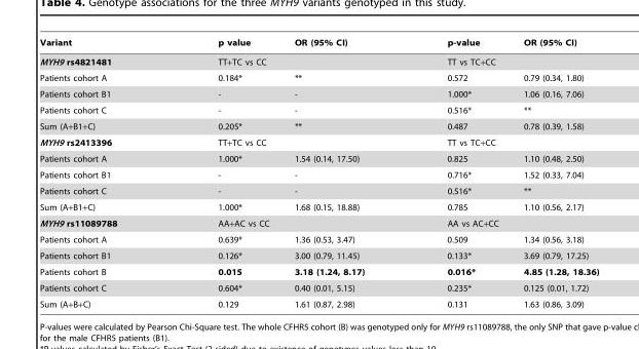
<table><thead><tr><td>Variant</td><td>p value</td><td>OR (95% CI)</td><td>p-value</td><td>OR (95% CI)</td></tr></thead><tbody><tr><td>MYH9 rs4821481</td><td colspan="2">TT+TC vs CC</td><td colspan="2">TT vs TC+CC</td></tr><tr><td>Patients cohort A</td><td>0.184*</td><td>**</td><td>0.572</td><td>0.79 (0.34, 1.80)</td></tr><tr><td>Patients cohort B1</td><td>-</td><td>-</td><td>1.000*</td><td>1.06 (0.16, 7.06)</td></tr><tr><td>Patients cohort C</td><td>-</td><td>-</td><td>0.516*</td><td>**</td></tr><tr><td>Sum (A+B1+C)</td><td>0.205*</td><td>**</td><td>0.487</td><td>0.78 (0.39, 1.58)</td></tr><tr><td>MYH9 rs2413396</td><td colspan="2">TT+TC vs CC</td><td colspan="2">TT vs TC+CC</td></tr><tr><td>Patients cohort A</td><td>1.000*</td><td>1.54 (0.14, 17.50)</td><td>0.825</td><td>1.10 (0.48, 2.50)</td></tr><tr><td>Patients cohort B1</td><td>-</td><td>-</td><td>0.716*</td><td>1.52 (0.33, 7.04)</td></tr><tr><td>Patients cohort C</td><td>-</td><td>-</td><td>0.516*</td><td>**</td></tr><tr><td>Sum (A+B1+C)</td><td>1.000*</td><td>1.68 (0.15, 18.88)</td><td>0.785</td><td>1.10 (0.56, 2.17)</td></tr><tr><td>MYH9 rs11089788</td><td colspan="2">AA+AC vs CC</td><td colspan="2">AA vs AC+CC</td></tr><tr><td>Patients cohort A</td><td>0.639*</td><td>1.36 (0.53, 3.47)</td><td>0.509</td><td>1.34 (0.56, 3.18)</td></tr><tr><td>Patients cohort B1</td><td>0.126*</td><td>3.00 (0.79, 11.45)</td><td>0.133*</td><td>3.69 (0.79, 17.25)</td></tr><tr><td>Patients cohort B</td><td>0.015</td><td>3.18 (1.24, 8.17)</td><td>0.016*</td><td>4.85 (1.28, 18.36)</td></tr><tr><td>Patients cohort C</td><td>0.604*</td><td>0.40 (0.01, 5.15)</td><td>0.235*</td><td>0.125 (0.01, 1.72)</td></tr><tr><td>Sum (A+B+C)</td><td>0.129</td><td>1.61 (0.87, 2.98)</td><td>0.131</td><td>1.63 (0.86, 3.09)</td></tr></tbody></table>